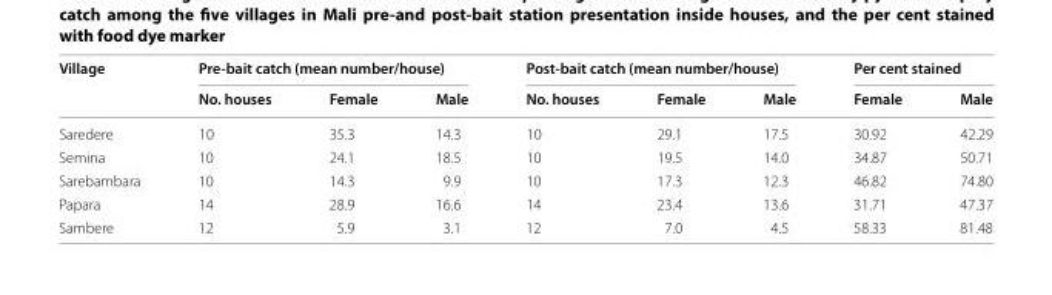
<table><thead><tr><td rowspan="2">Village</td><td colspan="3">Pre-bait catch (mean number/house)</td><td colspan="3">Post-bait catch (mean number/house)</td><td colspan="2">Per cent stained</td></tr><tr><td>No. houses</td><td>Female</td><td>Male</td><td>No. houses</td><td>Female</td><td>Male</td><td>Female</td><td>Male</td></tr></thead><tbody><tr><td>Saredere</td><td>10</td><td>35.3</td><td>14.3</td><td>10</td><td>29.1</td><td>17.5</td><td>30.92</td><td>42.29</td></tr><tr><td>Semina</td><td>10</td><td>24.1</td><td>18.5</td><td>10</td><td>19.5</td><td>14.0</td><td>34.87</td><td>50.71</td></tr><tr><td>Sarebambara</td><td>10</td><td>14.3</td><td>9.9</td><td>10</td><td>17.3</td><td>12.3</td><td>46.82</td><td>74.80</td></tr><tr><td>Papara</td><td>14</td><td>28.9</td><td>16.6</td><td>14</td><td>23.4</td><td>13.6</td><td>31.71</td><td>47.37</td></tr><tr><td>Sambere</td><td>12</td><td>5.9</td><td>3.1</td><td>12</td><td>7.0</td><td>4.5</td><td>58.33</td><td>81.48</td></tr></tbody></table>